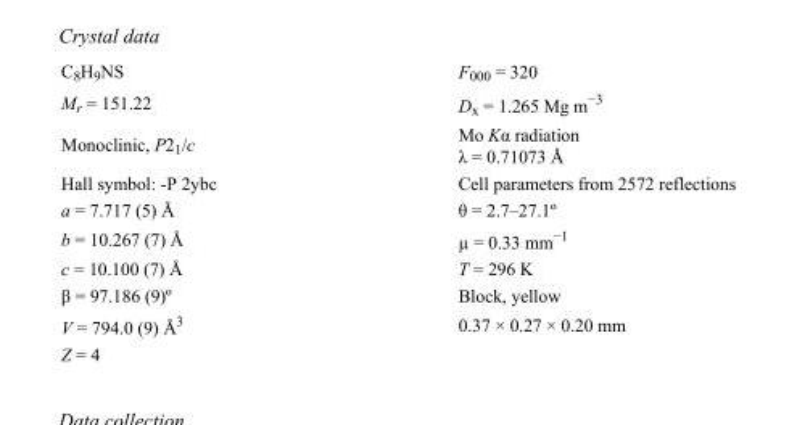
<table><tbody><tr><td>C<sub>8</sub>H<sub>9</sub>NS</td><td>F000 = 320</td></tr><tr><td>M<sub>r</sub> = 151.22</td><td>D<sub>x</sub> = 1.265 Mg m<sup>−3</sup></td></tr><tr><td>Monoclinic, P2<sub>1</sub>/c</td><td>Mo Kα radiation λ = 0.71073 Å</td></tr><tr><td>Hall symbol: -P 2ybc</td><td>Cell parameters from 2572 reflections</td></tr><tr><td>a = 7.717 (5) Å</td><td>θ = 2.7–27.1º</td></tr><tr><td>b = 10.267 (7) Å</td><td>µ = 0.33 mm<sup>−1</sup></td></tr><tr><td>c = 10.100 (7) Å</td><td>T = 296 K</td></tr><tr><td>β = 97.186 (9)º</td><td>Block, yellow</td></tr><tr><td>V = 794.0 (9) Å<sup>3</sup></td><td>0.37 × 0.27 × 0.20 mm</td></tr><tr><td>Z = 4</td><td></td></tr></tbody></table>